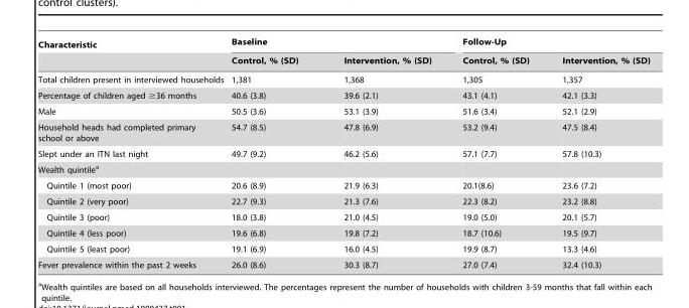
<table><thead><tr><td rowspan="2">Characteristic</td><td colspan="2">Baseline</td><td colspan="2">Follow-Up</td></tr><tr><td>Control, % (SD)</td><td>Intervention, % (SD)</td><td>Control, % (SD)</td><td>Intervention, % (SD)</td></tr></thead><tbody><tr><td>Total children present in interviewed households</td><td>1,381</td><td>1,368</td><td>1,305</td><td>1,357</td></tr><tr><td>Percentage of children aged ≥36 months</td><td>40.6 (3.8)</td><td>39.6 (2.1)</td><td>43.1 (4.1)</td><td>42.1 (3.3)</td></tr><tr><td>Male</td><td>50.5 (3.6)</td><td>53.1 (3.9)</td><td>51.6 (3.4)</td><td>52.1 (2.9)</td></tr><tr><td>Household heads had completed primary school or above</td><td>54.7 (8.5)</td><td>47.8 (6.9)</td><td>53.2 (9.4)</td><td>47.5 (8.4)</td></tr><tr><td>Slept under an ITN last night</td><td>49.7 (9.2)</td><td>46.2 (5.6)</td><td>57.1 (7.7)</td><td>57.8 (10.3)</td></tr><tr><td colspan="5">Wealth quintile<sup>a</sup></td></tr><tr><td>Quintile 1 (most poor)</td><td>20.6 (8.9)</td><td>21.9 (6.3)</td><td>20.1(8.6)</td><td>23.6 (7.2)</td></tr><tr><td>Quintile 2 (very poor)</td><td>22.7 (9.3)</td><td>21.3 (7.6)</td><td>22.3 (8.2)</td><td>23.2 (8.8)</td></tr><tr><td>Quintile 3 (poor)</td><td>18.0 (3.8)</td><td>21.0 (4.5)</td><td>19.0 (5.0)</td><td>20.1 (5.7)</td></tr><tr><td>Quintile 4 (less poor)</td><td>19.6 (6.8)</td><td>19.8 (7.2)</td><td>18.7 (10.6)</td><td>19.5 (9.7)</td></tr><tr><td>Quintile 5 (least poor)</td><td>19.1 (6.9)</td><td>16.0 (4.5)</td><td>19.9 (8.7)</td><td>13.3 (4.6)</td></tr><tr><td>Fever prevalence within the past 2 weeks</td><td>26.0 (8.6)</td><td>30.3 (8.7)</td><td>27.0 (7.4)</td><td>32.4 (10.3)</td></tr></tbody></table>